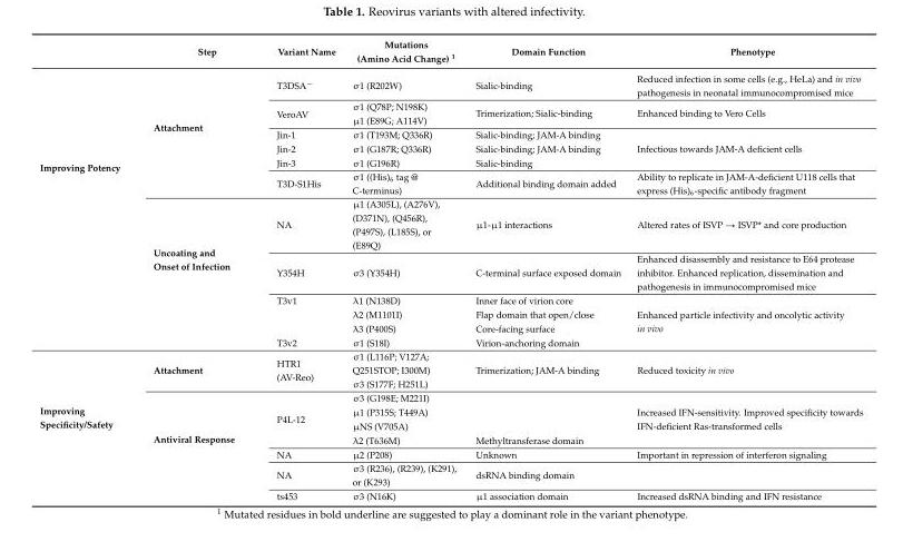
<table><thead><tr><td></td><td>Step</td><td>Variant Name</td><td>Mutations (Amino Acid Change) <sup>1</sup></td><td>Domain Function</td><td>Phenotype</td></tr></thead><tbody><tr><td rowspan="13">Improving Potency</td><td rowspan="7">Attachment</td><td>T3DSA<sup>−</sup></td><td>σ1 (R202W)</td><td>Sialic-binding</td><td>Reduced infection in some cells (e.g., HeLa) and in vivo pathogenesis in neonatal immunocompromised mice</td></tr><tr><td rowspan="2">VeroAV</td><td>σ1 (Q78P; N198K)</td><td rowspan="2">Trimerization; Sialic-binding</td><td rowspan="2">Enhanced binding to Vero Cells</td></tr><tr><td>µ1 (E89G; A114V)</td></tr><tr><td>Jin-1</td><td>σ1 (T193M; Q336R)</td><td>Sialic-binding; JAM-A binding</td><td rowspan="3">Infectious towards JAM-A deficient cells</td></tr><tr><td>Jin-2</td><td>σ1 (G187R; Q336R)</td><td>Sialic-binding; JAM-A binding</td></tr><tr><td>Jin-3</td><td>σ1 (G196R)</td><td>Sialic-binding</td></tr><tr><td>T3D-S1His</td><td>σ1 ((His)<sub>6</sub> tag @ C-terminus)</td><td>Additional binding domain added</td><td>Ability to replicate in JAM-A-deficient U118 cells that express (His)<sub>6</sub>-specific antibody fragment</td></tr><tr><td rowspan="6">Uncoating and Onset of Infection</td><td>NA</td><td>µ1 (A305L), (A276V), (D371N), (Q456R), (P497S), (L185S), or (E89Q)</td><td>µ1-µ1 interactions</td><td>Altered rates of ISVP → ISVP* and core production</td></tr><tr><td>Y354H</td><td>σ3 (Y354H)</td><td>C-terminal surface exposed domain</td><td>Enhanced disassembly and resistance to E64 protease inhibitor. Enhanced replication, dissemination and pathogenesis in immunocompromised mice</td></tr><tr><td>T3v1</td><td>λ1 (N138D)</td><td>Inner face of virion core</td><td rowspan="4">Enhanced particle infectivity and oncolytic activity in vivo</td></tr><tr><td></td><td>λ2 (M1101I)</td><td>Flap domain that open/close</td></tr><tr><td></td><td>λ3 (P400S)</td><td>Core-facing surface</td></tr><tr><td>T3v2</td><td>σ1 (S18I)</td><td>Virion-anchoring domain</td></tr><tr><td rowspan="8">Improving Specificity/Safety</td><td>Attachment</td><td>HTR1 (AV-Reo)</td><td>σ1 (L116P; V127A; Q251STOP; I300M) σ3 (S177F; H251L)</td><td>Trimerization; JAM-A binding</td><td>Reduced toxicity in vivo</td></tr><tr><td rowspan="7">Antiviral Response</td><td rowspan="4">P4L-12</td><td>σ3 (G198E; M221I)</td><td></td><td rowspan="4">Increased IFN-sensitivity. Improved specificity towards IFN-deficient Ras-transformed cells</td></tr><tr><td>µ1 (P315S; T449A)</td><td></td></tr><tr><td>µNS (V705A)</td><td></td></tr><tr><td>λ2 (T636M)</td><td>Methyltransferase domain</td></tr><tr><td>NA</td><td>µ2 (P208)</td><td>Unknown</td><td>Important in repression of interferon signaling</td></tr><tr><td>NA</td><td>σ3 (R236), (R239), (K291), or (K293)</td><td>dsRNA binding domain</td><td></td></tr><tr><td>ts453</td><td>σ3 (N16K)</td><td>µ1 association domain</td><td>Increased dsRNA binding and IFN resistance</td></tr></tbody></table>